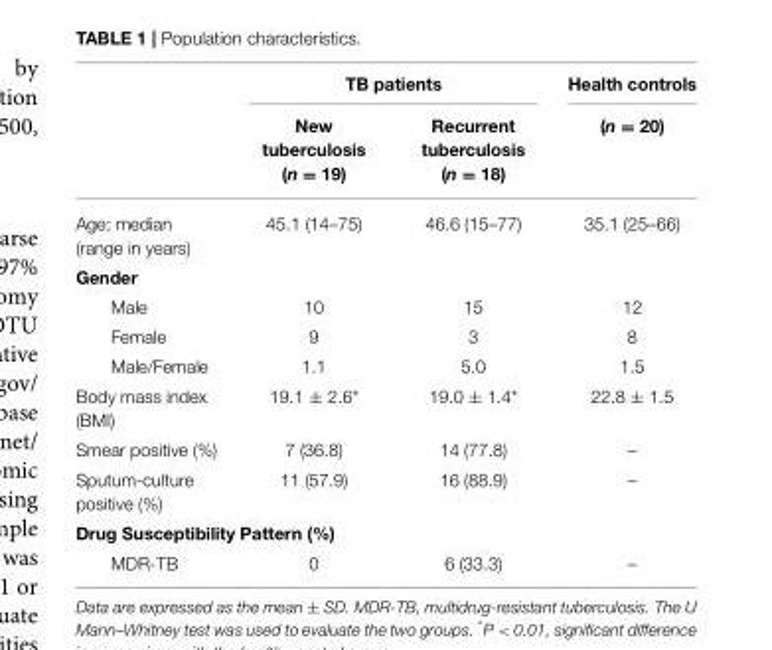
<table><thead><tr><td rowspan="2"></td><td colspan="2">TB patients</td><td rowspan="2">Health controls (n = 20)</td></tr><tr><td>New tuberculosis (n = 19)</td><td>Recurrent tuberculosis (n = 18)</td></tr></thead><tbody><tr><td>Age; median (range in years)</td><td>45.1 (14–75)</td><td>46.6 (15–77)</td><td>35.1 (25–66)</td></tr><tr><td colspan="4">Gender</td></tr><tr><td>Male</td><td>10</td><td>15</td><td>12</td></tr><tr><td>Female</td><td>9</td><td>3</td><td>8</td></tr><tr><td>Male/Female</td><td>1.1</td><td>5.0</td><td>1.5</td></tr><tr><td>Body mass index (BMI)</td><td>19.1 ± 2.6*</td><td>19.0 ± 1.4*</td><td>22.8 ± 1.5</td></tr><tr><td>Smear positive (%)</td><td>7 (36.8)</td><td>14 (77.8)</td><td>–</td></tr><tr><td>Sputum-culture positive (%)</td><td>11 (57.9)</td><td>16 (88.9)</td><td>–</td></tr><tr><td colspan="4">Drug Susceptibility Pattern (%)</td></tr><tr><td>MDR-TB</td><td>0</td><td>6 (33.3)</td><td>–</td></tr></tbody></table>